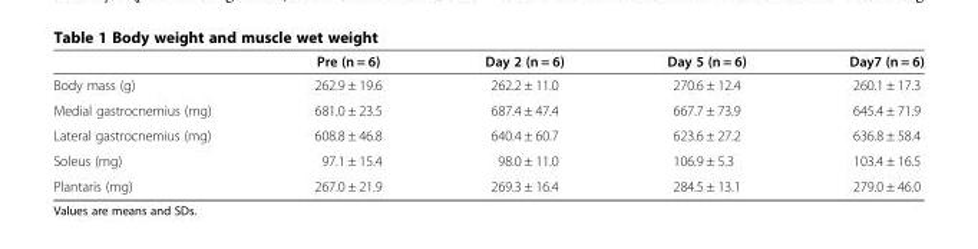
<table><thead><tr><td></td><td>Pre (n = 6)</td><td>Day 2 (n = 6)</td><td>Day 5 (n = 6)</td><td>Day7 (n = 6)</td></tr></thead><tbody><tr><td>Body mass (g)</td><td>262.9 ± 19.6</td><td>262.2 ± 11.0</td><td>270.6 ± 12.4</td><td>260.1 ± 17.3</td></tr><tr><td>Medial gastrocnemius (mg)</td><td>681.0 ± 23.5</td><td>687.4 ± 47.4</td><td>667.7 ± 73.9</td><td>645.4 ± 71.9</td></tr><tr><td>Lateral gastrocnemius (mg)</td><td>608.8 ± 46.8</td><td>640.4 ± 60.7</td><td>623.6 ± 27.2</td><td>636.8 ± 58.4</td></tr><tr><td>Soleus (mg)</td><td>97.1 ± 15.4</td><td>98.0 ± 11.0</td><td>106.9 ± 5.3</td><td>103.4 ± 16.5</td></tr><tr><td>Plantaris (mg)</td><td>267.0 ± 21.9</td><td>269.3 ± 16.4</td><td>284.5 ± 13.1</td><td>279.0 ± 46.0</td></tr></tbody></table>